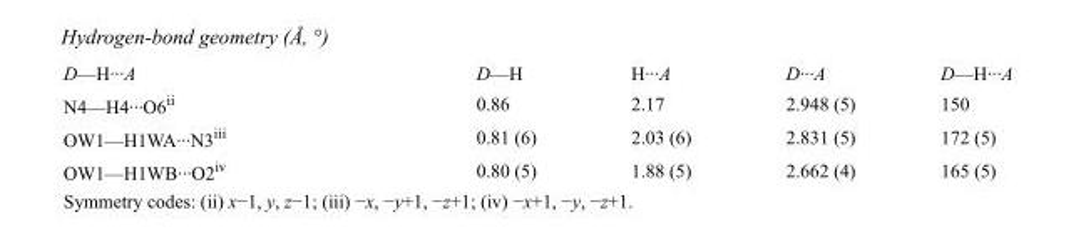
<table><tbody><tr><td>D—H···A</td><td>D—H</td><td>H···A</td><td>D···A</td><td>D—H···A</td></tr><tr><td>N4—H4···O6<sup>ii</sup></td><td>0.86</td><td>2.17</td><td>2.948 (5)</td><td>150</td></tr><tr><td>OW1—H1WA···N3<sup>iii</sup></td><td>0.81 (6)</td><td>2.03 (6)</td><td>2.831 (5)</td><td>172 (5)</td></tr><tr><td>OW1—H1WB···O2<sup>iv</sup></td><td>0.80 (5)</td><td>1.88 (5)</td><td>2.662 (4)</td><td>165 (5)</td></tr></tbody></table>